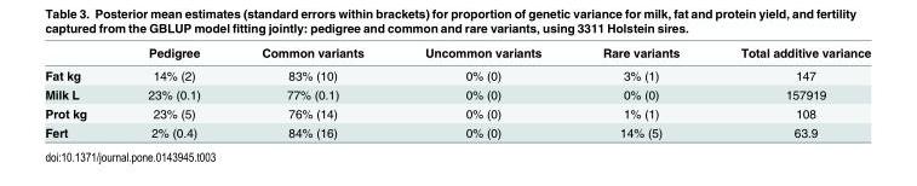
<table><thead><tr><td></td><td>Pedigree</td><td>Common variants</td><td>Uncommon variants</td><td>Rare variants</td><td>Total additive variance</td></tr></thead><tbody><tr><td>Fat kg</td><td>14% (2)</td><td>83% (10)</td><td>0% (0)</td><td>3% (1)</td><td>147</td></tr><tr><td>Milk L</td><td>23% (0.1)</td><td>77% (0.1)</td><td>0% (0)</td><td>0% (0)</td><td>157919</td></tr><tr><td>Prot kg</td><td>23% (5)</td><td>76% (14)</td><td>0% (0)</td><td>1% (1)</td><td>108</td></tr><tr><td>Fert</td><td>2% (0.4)</td><td>84% (16)</td><td>0% (0)</td><td>14% (5)</td><td>63.9</td></tr></tbody></table>